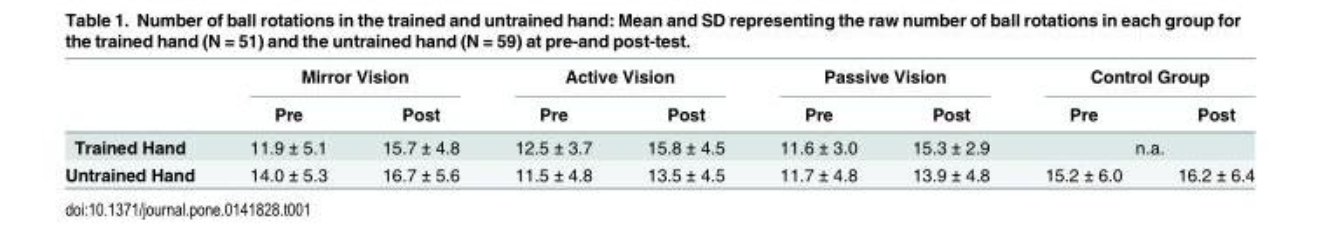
<table><thead><tr><td rowspan="2"></td><td colspan="2">Mirror Vision</td><td colspan="2">Active Vision</td><td colspan="2">Passive Vision</td><td colspan="2">Control Group</td></tr><tr><td>Pre</td><td>Post</td><td>Pre</td><td>Post</td><td>Pre</td><td>Post</td><td>Pre</td><td>Post</td></tr></thead><tbody><tr><td>Trained Hand</td><td>11.9 ± 5.1</td><td>15.7 ± 4.8</td><td>12.5 ± 3.7</td><td>15.8 ± 4.5</td><td>11.6 ± 3.0</td><td>15.3 ± 2.9</td><td colspan="2">n.a.</td></tr><tr><td>Untrained Hand</td><td>14.0 ± 5.3</td><td>16.7 ± 5.6</td><td>11.5 ± 4.8</td><td>13.5 ± 4.5</td><td>11.7 ± 4.8</td><td>13.9 ± 4.8</td><td>15.2 ± 6.0</td><td>16.2 ± 6.4</td></tr></tbody></table>